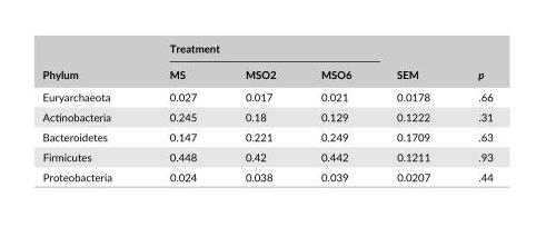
<table><thead><tr><td rowspan="2">Phylum</td><td colspan="3">Treatment</td><td rowspan="2">SEM</td><td rowspan="2">p</td></tr><tr><td>MS</td><td>MSO2</td><td>MSO6</td></tr></thead><tbody><tr><td>Euryarchaeota</td><td>0.027</td><td>0.017</td><td>0.021</td><td>0.0178</td><td>.66</td></tr><tr><td>Actinobacteria</td><td>0.245</td><td>0.18</td><td>0.129</td><td>0.1222</td><td>.31</td></tr><tr><td>Bacteroidetes</td><td>0.147</td><td>0.221</td><td>0.249</td><td>0.1709</td><td>.63</td></tr><tr><td>Firmicutes</td><td>0.448</td><td>0.42</td><td>0.442</td><td>0.1211</td><td>.93</td></tr><tr><td>Proteobacteria</td><td>0.024</td><td>0.038</td><td>0.039</td><td>0.0207</td><td>.44</td></tr></tbody></table>